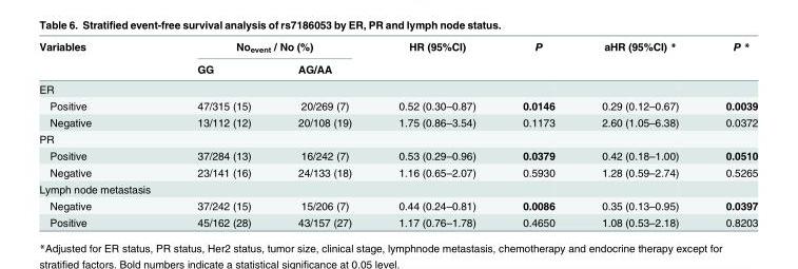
<table><thead><tr><td rowspan="2">Variables</td><td colspan="2">No<sub>event</sub> / No (%)</td><td rowspan="2">HR (95%CI)</td><td rowspan="2">P</td><td rowspan="2">aHR (95%CI) *</td><td rowspan="2">P *</td></tr><tr><td>GG</td><td>AG/AA</td></tr></thead><tbody><tr><td colspan="7">ER</td></tr><tr><td>Positive</td><td>47/315 (15)</td><td>20/269 (7)</td><td>0.52 (0.30–0.87)</td><td>0.0146</td><td>0.29 (0.12–0.67)</td><td>0.0039</td></tr><tr><td>Negative</td><td>13/112 (12)</td><td>20/108 (19)</td><td>1.75 (0.86–3.54)</td><td>0.1173</td><td>2.60 (1.05–6.38)</td><td>0.0372</td></tr><tr><td colspan="7">PR</td></tr><tr><td>Positive</td><td>37/284 (13)</td><td>16/242 (7)</td><td>0.53 (0.29–0.96)</td><td>0.0379</td><td>0.42 (0.18–1.00)</td><td>0.0510</td></tr><tr><td>Negative</td><td>23/141 (16)</td><td>24/133 (18)</td><td>1.16 (0.65–2.07)</td><td>0.5930</td><td>1.28 (0.59–2.74)</td><td>0.5265</td></tr><tr><td colspan="7">Lymph node metastasis</td></tr><tr><td>Negative</td><td>37/242 (15)</td><td>15/206 (7)</td><td>0.44 (0.24–0.81)</td><td>0.0086</td><td>0.35 (0.13–0.95)</td><td>0.0397</td></tr><tr><td>Positive</td><td>45/162 (28)</td><td>43/157 (27)</td><td>1.17 (0.76–1.78)</td><td>0.4650</td><td>1.08 (0.53–2.18)</td><td>0.8203</td></tr></tbody></table>